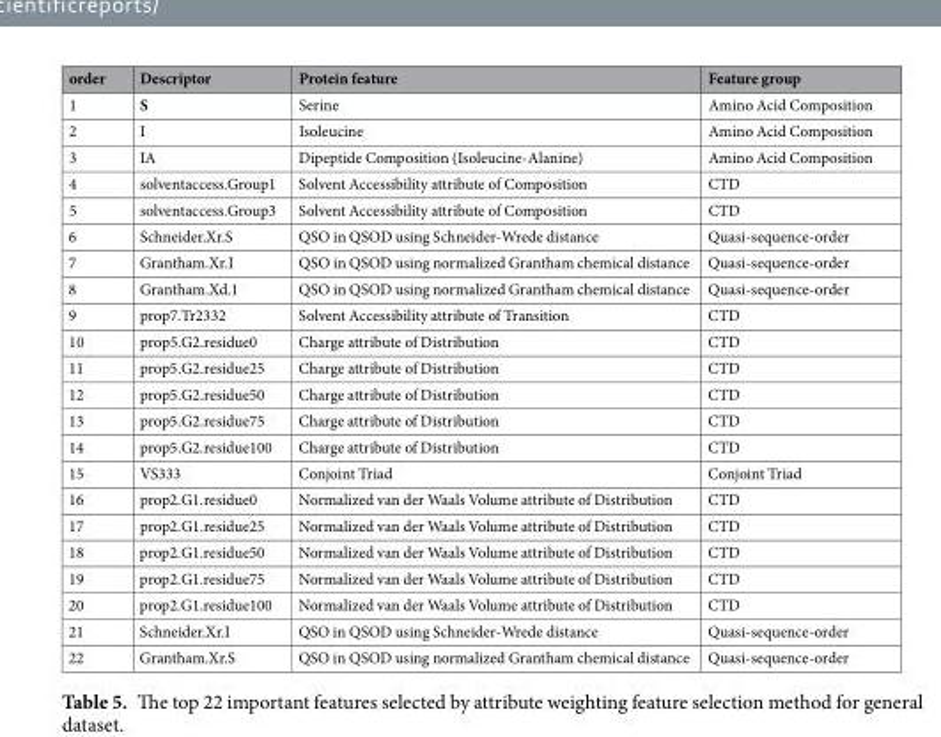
<table><thead><tr><td>order</td><td>Descriptor</td><td>Protein feature</td><td>Feature group</td></tr></thead><tbody><tr><td>1</td><td>S</td><td>Serine</td><td>Amino Acid Composition</td></tr><tr><td>2</td><td>I</td><td>Isoleucine</td><td>Amino Acid Composition</td></tr><tr><td>3</td><td>IA</td><td>Dipeptide Composition (Isoleucine-Alanine)</td><td>Amino Acid Composition</td></tr><tr><td>4</td><td>solventaccess.Group1</td><td>Solvent Accessibility attribute of Composition</td><td>CTD</td></tr><tr><td>5</td><td>solventaccess.Group3</td><td>Solvent Accessibility attribute of Composition</td><td>CTD</td></tr><tr><td>6</td><td>Schneider.Xr.S</td><td>QSO in QSOD using Schneider-Wrede distance</td><td>Quasi-sequence-order</td></tr><tr><td>7</td><td>Grantham.Xr.I</td><td>QSO in QSOD using normalized Grantham chemical distance</td><td>Quasi-sequence-order</td></tr><tr><td>8</td><td>Grantham.Xd.1</td><td>QSO in QSOD using normalized Grantham chemical distance</td><td>Quasi-sequence-order</td></tr><tr><td>9</td><td>prop7.Tr2332</td><td>Solvent Accessibility attribute of Transition</td><td>CTD</td></tr><tr><td>10</td><td>prop5.G2.residue0</td><td>Charge attribute of Distribution</td><td>CTD</td></tr><tr><td>11</td><td>prop5.G2.residue25</td><td>Charge attribute of Distribution</td><td>CTD</td></tr><tr><td>12</td><td>prop5.G2.residue50</td><td>Charge attribute of Distribution</td><td>CTD</td></tr><tr><td>13</td><td>prop5.G2.residue75</td><td>Charge attribute of Distribution</td><td>CTD</td></tr><tr><td>14</td><td>prop5.G2.residue100</td><td>Charge attribute of Distribution</td><td>CTD</td></tr><tr><td>15</td><td>VS333</td><td>Conjoint Triad</td><td>Conjoint Triad</td></tr><tr><td>16</td><td>prop2.G1.residue0</td><td>Normalized van der Waals Volume attribute of Distribution</td><td>CTD</td></tr><tr><td>17</td><td>prop2.G1.residue25</td><td>Normalized van der Waals Volume attribute of Distribution</td><td>CTD</td></tr><tr><td>18</td><td>prop2.G1.residue50</td><td>Normalized van der Waals Volume attribute of Distribution</td><td>CTD</td></tr><tr><td>19</td><td>prop2.G1.residue75</td><td>Normalized van der Waals Volume attribute of Distribution</td><td>CTD</td></tr><tr><td>20</td><td>prop2.G1.residue100</td><td>Normalized van der Waals Volume attribute of Distribution</td><td>CTD</td></tr><tr><td>21</td><td>Schneider.Xr.I</td><td>QSO in QSOD using Schneider-Wrede distance</td><td>Quasi-sequence-order</td></tr><tr><td>22</td><td>Grantham.Xr.S</td><td>QSO in QSOD using normalized Grantham chemical distance</td><td>Quasi-sequence-order</td></tr></tbody></table>